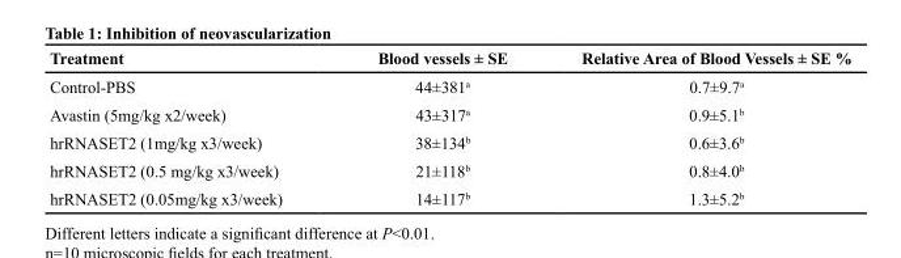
<table><thead><tr><td>Treatment</td><td>Blood vessels ± SE</td><td>Relative Area of Blood Vessels ± SE %</td></tr></thead><tbody><tr><td>Control-PBS</td><td>44±381<sup>a</sup></td><td>0.7±9.7<sup>a</sup></td></tr><tr><td>Avastin (5mg/kg x2/week)</td><td>43±317<sup>a</sup></td><td>0.9±5.1<sup>b</sup></td></tr><tr><td>hrRNASET2 (1mg/kg x3/week)</td><td>38±134<sup>b</sup></td><td>0.6±3.6<sup>b</sup></td></tr><tr><td>hrRNASET2 (0.5 mg/kg x3/week)</td><td>21±118<sup>b</sup></td><td>0.8±4.0<sup>b</sup></td></tr><tr><td>hrRNASET2 (0.05mg/kg x3/week)</td><td>14±117<sup>b</sup></td><td>1.3±5.2<sup>b</sup></td></tr></tbody></table>